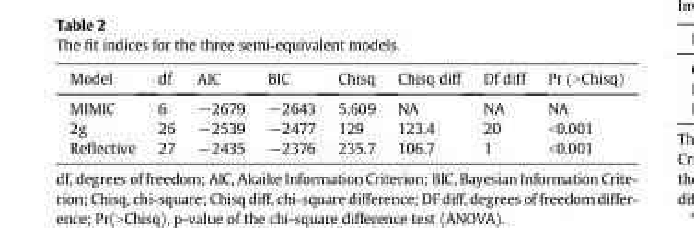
<table><thead><tr><td>Model</td><td>df</td><td>AIC</td><td>BIC</td><td>Chisq</td><td>Chisq diff</td><td>Df diff</td><td>Pr (&gt;Chisq)</td></tr></thead><tbody><tr><td>MIMIC</td><td>6</td><td>−2679</td><td>−2643</td><td>5.609</td><td>NA</td><td>NA</td><td>NA</td></tr><tr><td>2g</td><td>26</td><td>−2539</td><td>−2477</td><td>129</td><td>123.4</td><td>20</td><td>&lt;0.001</td></tr><tr><td>Reflective</td><td>27</td><td>−2435</td><td>−2376</td><td>235.7</td><td>106.7</td><td>1</td><td>&lt;0.001</td></tr></tbody></table>